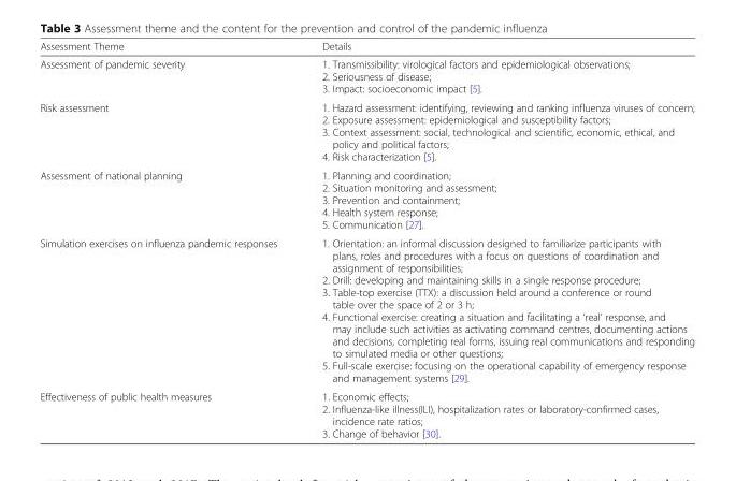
<table><thead><tr><td>Assessment Theme</td><td>Details</td></tr></thead><tbody><tr><td>Assessment of pandemic severity</td><td>1. Transmissibility: virological factors and epidemiological observations; 2. Seriousness of disease; 3. Impact: socioeconomic impact [5].</td></tr><tr><td>Risk assessment</td><td>1. Hazard assessment: identifying, reviewing and ranking influenza viruses of concern; 2. Exposure assessment: epidemiological and susceptibility factors; 3. Context assessment: social, technological and scientific, economic, ethical, and policy and political factors; 4. Risk characterization [5].</td></tr><tr><td>Assessment of national planning</td><td>1. Planning and coordination; 2. Situation monitoring and assessment; 3. Prevention and containment; 4. Health system response; 5. Communication [27].</td></tr><tr><td>Simulation exercises on influenza pandemic responses</td><td>1. Orientation: an informal discussion designed to familiarize participants with plans, roles and procedures with a focus on questions of coordination and assignment of responsibilities; 2. Drill: developing and maintaining skills in a single response procedure; 3. Table-top exercise (TTX): a discussion held around a conference or round table over the space of 2 or 3 h; 4. Functional exercise: creating a situation and facilitating a ‘real’ response, and may include such activities as activating command centres, documenting actions and decisions, completing real forms, issuing real communications and responding to simulated media or other questions; 5. Full-scale exercise: focusing on the operational capability of emergency response and management systems [29].</td></tr><tr><td>Effectiveness of public health measures</td><td>1. Economic effects; 2. Influenza-like illness(ILI), hospitalization rates or laboratory-confirmed cases, incidence rate ratios; 3. Change of behavior [30].</td></tr></tbody></table>